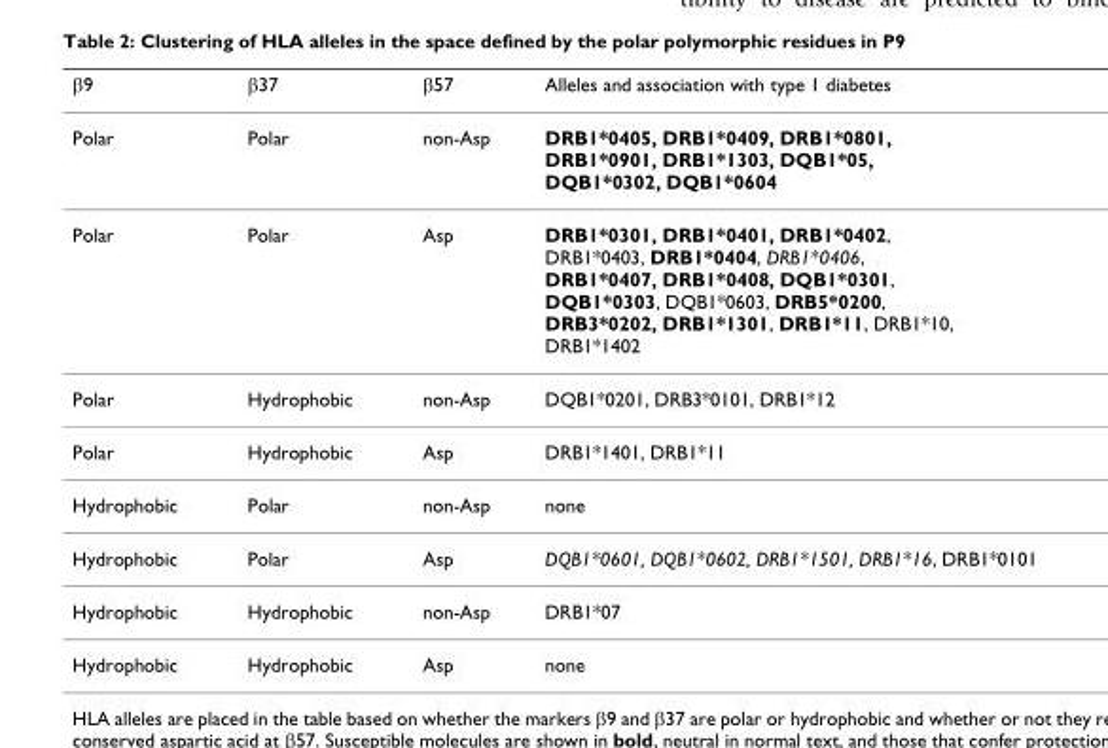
<table><thead><tr><td>β9</td><td>β37</td><td>β57</td><td>Alleles and association with type 1 diabetes</td></tr></thead><tbody><tr><td>Polar</td><td>Polar</td><td>non-Asp</td><td>DRB1*0405, DRB1*0409, DRB1*0801, DRB1*0901, DRB1*1303, DQB1*05, DQB1*0302, DQB1*0604</td></tr><tr><td>Polar</td><td>Polar</td><td>Asp</td><td>DRB1*0301, DRB1*0401, DRB1*0402, DRB1*0403, DRB1*0404, DRB1*0406, DRB1*0407, DRB1*0408, DQB1*0301, DQB1*0303, DQB1*0603, DRB5*0200, DRB3*0202, DRB1*1301, DRB1*11, DRB1*10, DRB1*1402</td></tr><tr><td>Polar</td><td>Hydrophobic</td><td>non-Asp</td><td>DQB1*0201, DRB3*0101, DRB1*12</td></tr><tr><td>Polar</td><td>Hydrophobic</td><td>Asp</td><td>DRB1*1401, DRB1*11</td></tr><tr><td>Hydrophobic</td><td>Polar</td><td>non-Asp</td><td>none</td></tr><tr><td>Hydrophobic</td><td>Polar</td><td>Asp</td><td>DQB1*0601, DQB1*0602, DRB1*1501, DRB1*16, DRB1*0101</td></tr><tr><td>Hydrophobic</td><td>Hydrophobic</td><td>non-Asp</td><td>DRB1*07</td></tr><tr><td>Hydrophobic</td><td>Hydrophobic</td><td>Asp</td><td>none</td></tr></tbody></table>